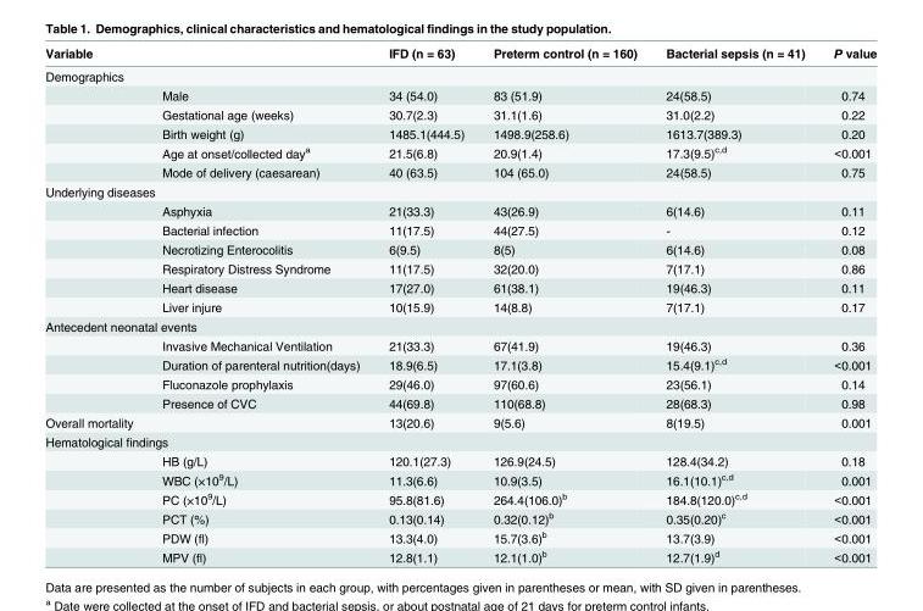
<table><thead><tr><td>Variable</td><td></td><td>IFD (n = 63)</td><td>Preterm control (n = 160)</td><td>Bacterial sepsis (n = 41)</td><td>P value</td></tr></thead><tbody><tr><td colspan="6">Demographics</td></tr><tr><td></td><td>Male</td><td>34 (54.0)</td><td>83 (51.9)</td><td>24(58.5)</td><td>0.74</td></tr><tr><td></td><td>Gestational age (weeks)</td><td>30.7(2.3)</td><td>31.1(1.6)</td><td>31.0(2.2)</td><td>0.22</td></tr><tr><td></td><td>Birth weight (g)</td><td>1485.1(444.5)</td><td>1498.9(258.6)</td><td>1613.7(389.3)</td><td>0.20</td></tr><tr><td></td><td>Age at onset/collected day<sup>a</sup></td><td>21.5(6.8)</td><td>20.9(1.4)</td><td>17.3(9.5)<sup>c,d</sup></td><td>&lt;0.001</td></tr><tr><td></td><td>Mode of delivery (caesarean)</td><td>40 (63.5)</td><td>104 (65.0)</td><td>24(58.5)</td><td>0.75</td></tr><tr><td colspan="6">Underlying diseases</td></tr><tr><td></td><td>Asphyxia</td><td>21(33.3)</td><td>43(26.9)</td><td>6(14.6)</td><td>0.11</td></tr><tr><td></td><td>Bacterial infection</td><td>11(17.5)</td><td>44(27.5)</td><td>-</td><td>0.12</td></tr><tr><td></td><td>Necrotizing Enterocolitis</td><td>6(9.5)</td><td>8(5)</td><td>6(14.6)</td><td>0.08</td></tr><tr><td></td><td>Respiratory Distress Syndrome</td><td>11(17.5)</td><td>32(20.0)</td><td>7(17.1)</td><td>0.86</td></tr><tr><td></td><td>Heart disease</td><td>17(27.0)</td><td>61(38.1)</td><td>19(46.3)</td><td>0.11</td></tr><tr><td></td><td>Liver injure</td><td>10(15.9)</td><td>14(8.8)</td><td>7(17.1)</td><td>0.17</td></tr><tr><td colspan="6">Antecedent neonatal events</td></tr><tr><td></td><td>Invasive Mechanical Ventilation</td><td>21(33.3)</td><td>67(41.9)</td><td>19(46.3)</td><td>0.36</td></tr><tr><td></td><td>Duration of parenteral nutrition(days)</td><td>18.9(6.5)</td><td>17.1(3.8)</td><td>15.4(9.1)<sup>c,d</sup></td><td>&lt;0.001</td></tr><tr><td></td><td>Fluconazole prophylaxis</td><td>29(46.0)</td><td>97(60.6)</td><td>23(56.1)</td><td>0.14</td></tr><tr><td></td><td>Presence of CVC</td><td>44(69.8)</td><td>110(68.8)</td><td>28(68.3)</td><td>0.98</td></tr><tr><td>Overall mortality</td><td></td><td>13(20.6)</td><td>9(5.6)</td><td>8(19.5)</td><td>0.001</td></tr><tr><td colspan="6">Hematological findings</td></tr><tr><td></td><td>HB (g/L)</td><td>120.1(27.3)</td><td>126.9(24.5)</td><td>128.4(34.2)</td><td>0.18</td></tr><tr><td></td><td>WBC (×10<sup>9</sup>/L)</td><td>11.3(6.6)</td><td>10.9(3.5)</td><td>16.1(10.1)<sup>c,d</sup></td><td>0.001</td></tr><tr><td></td><td>PC (×10<sup>9</sup>/L)</td><td>95.8(81.6)</td><td>264.4(106.0)<sup>b</sup></td><td>184.8(120.0)<sup>c,d</sup></td><td>&lt;0.001</td></tr><tr><td></td><td>PCT (%)</td><td>0.13(0.14)</td><td>0.32(0.12)<sup>b</sup></td><td>0.35(0.20)<sup>c</sup></td><td>&lt;0.001</td></tr><tr><td></td><td>PDW (fl)</td><td>13.3(4.0)</td><td>15.7(3.6)<sup>b</sup></td><td>13.7(3.9)</td><td>&lt;0.001</td></tr><tr><td></td><td>MPV (fl)</td><td>12.8(1.1)</td><td>12.1(1.0)<sup>b</sup></td><td>12.7(1.9)<sup>d</sup></td><td>&lt;0.001</td></tr></tbody></table>